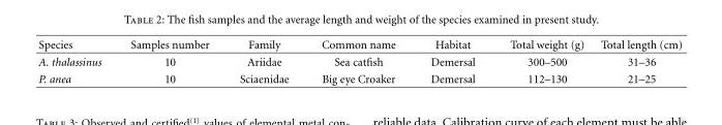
<table><thead><tr><td>Species</td><td>Samples number</td><td>Family</td><td>Common name</td><td>Habitat</td><td>Total weight (g)</td><td>Total length (cm)</td></tr></thead><tbody><tr><td>A. thalassinus</td><td>10</td><td>Ariidae</td><td>Sea catfish</td><td>Demersal</td><td>300–500</td><td>31–36</td></tr><tr><td>P. anea</td><td>10</td><td>Sciaenidae</td><td>Big eye Croaker</td><td>Demersal</td><td>112–130</td><td>21–25</td></tr></tbody></table>